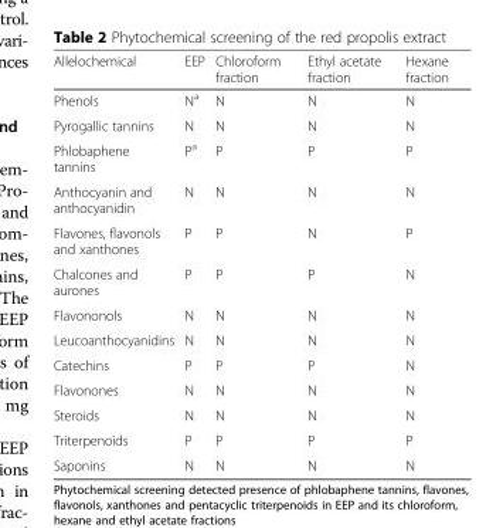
<table><thead><tr><td>Allelochemical</td><td>EEP</td><td>Chloroform fraction</td><td>Ethyl acetate fraction</td><td>Hexane fraction</td></tr></thead><tbody><tr><td>Phenols</td><td>N<sup>a</sup></td><td>N</td><td>N</td><td>N</td></tr><tr><td>Pyrogallic tannins</td><td>N</td><td>N</td><td>N</td><td>N</td></tr><tr><td>Phlobaphene tannins</td><td>P<sup>a</sup></td><td>P</td><td>P</td><td>P</td></tr><tr><td>Anthocyanin and anthocyanidin</td><td>N</td><td>N</td><td>N</td><td>N</td></tr><tr><td>Flavones, flavonols and xanthones</td><td>P</td><td>P</td><td>N</td><td>P</td></tr><tr><td>Chalcones and aurones</td><td>P</td><td>P</td><td>P</td><td>N</td></tr><tr><td>Flavononols</td><td>N</td><td>N</td><td>N</td><td>N</td></tr><tr><td>Leucoanthocyanidins</td><td>N</td><td>N</td><td>N</td><td>N</td></tr><tr><td>Catechins</td><td>P</td><td>P</td><td>P</td><td>N</td></tr><tr><td>Flavonones</td><td>N</td><td>N</td><td>N</td><td>N</td></tr><tr><td>Steroids</td><td>N</td><td>N</td><td>N</td><td>N</td></tr><tr><td>Triterpenoids</td><td>P</td><td>P</td><td>P</td><td>P</td></tr><tr><td>Saponins</td><td>N</td><td>N</td><td>N</td><td>N</td></tr></tbody></table>